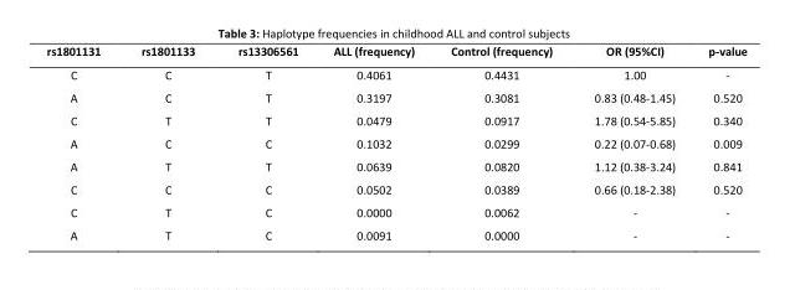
<table><thead><tr><td>rs1801131</td><td>rs1801133</td><td>rs13306561</td><td>ALL (frequency)</td><td>Control (frequency)</td><td>OR (95%CI)</td><td>p-value</td></tr></thead><tbody><tr><td>C</td><td>C</td><td>T</td><td>0.4061</td><td>0.4431</td><td>1.00</td><td>-</td></tr><tr><td>A</td><td>C</td><td>T</td><td>0.3197</td><td>0.3081</td><td>0.83 (0.48-1.45)</td><td>0.520</td></tr><tr><td>C</td><td>T</td><td>T</td><td>0.0479</td><td>0.0917</td><td>1.78 (0.54-5.85)</td><td>0.340</td></tr><tr><td>A</td><td>C</td><td>C</td><td>0.1032</td><td>0.0299</td><td>0.22 (0.07-0.68)</td><td>0.009</td></tr><tr><td>A</td><td>T</td><td>T</td><td>0.0639</td><td>0.0820</td><td>1.12 (0.38-3.24)</td><td>0.841</td></tr><tr><td>C</td><td>C</td><td>C</td><td>0.0502</td><td>0.0389</td><td>0.66 (0.18-2.38)</td><td>0.520</td></tr><tr><td>C</td><td>T</td><td>C</td><td>0.0000</td><td>0.0062</td><td>-</td><td>-</td></tr><tr><td>A</td><td>T</td><td>C</td><td>0.0091</td><td>0.0000</td><td>-</td><td>-</td></tr></tbody></table>